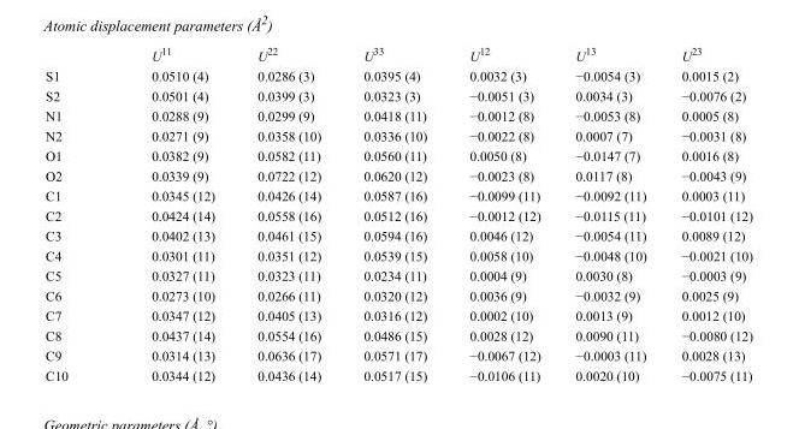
<table><thead><tr><td></td><td>U<sup>11</sup></td><td>U<sup>22</sup></td><td>U<sup>33</sup></td><td>U<sup>12</sup></td><td>U<sup>13</sup></td><td>U<sup>23</sup></td></tr></thead><tbody><tr><td>S1</td><td>0.0510 (4)</td><td>0.0286 (3)</td><td>0.0395 (4)</td><td>0.0032 (3)</td><td>−0.0054 (3)</td><td>0.0015 (2)</td></tr><tr><td>S2</td><td>0.0501 (4)</td><td>0.0399 (3)</td><td>0.0323 (3)</td><td>−0.0051 (3)</td><td>0.0034 (3)</td><td>−0.0076 (2)</td></tr><tr><td>N1</td><td>0.0288 (9)</td><td>0.0299 (9)</td><td>0.0418 (11)</td><td>−0.0012 (8)</td><td>−0.0053 (8)</td><td>0.0005 (8)</td></tr><tr><td>N2</td><td>0.0271 (9)</td><td>0.0358 (10)</td><td>0.0336 (10)</td><td>−0.0022 (8)</td><td>0.0007 (7)</td><td>−0.0031 (8)</td></tr><tr><td>O1</td><td>0.0382 (9)</td><td>0.0582 (11)</td><td>0.0560 (11)</td><td>0.0050 (8)</td><td>−0.0147 (7)</td><td>0.0016 (8)</td></tr><tr><td>O2</td><td>0.0339 (9)</td><td>0.0722 (12)</td><td>0.0620 (12)</td><td>−0.0023 (8)</td><td>0.0117 (8)</td><td>−0.0043 (9)</td></tr><tr><td>C1</td><td>0.0345 (12)</td><td>0.0426 (14)</td><td>0.0587 (16)</td><td>−0.0099 (11)</td><td>−0.0092 (11)</td><td>0.0003 (11)</td></tr><tr><td>C2</td><td>0.0424 (14)</td><td>0.0558 (16)</td><td>0.0512 (16)</td><td>−0.0012 (12)</td><td>−0.0115 (11)</td><td>−0.0101 (12)</td></tr><tr><td>C3</td><td>0.0402 (13)</td><td>0.0461 (15)</td><td>0.0594 (16)</td><td>0.0046 (12)</td><td>−0.0054 (11)</td><td>0.0089 (12)</td></tr><tr><td>C4</td><td>0.0301 (11)</td><td>0.0351 (12)</td><td>0.0539 (15)</td><td>0.0058 (10)</td><td>−0.0048 (10)</td><td>−0.0021 (10)</td></tr><tr><td>C5</td><td>0.0327 (11)</td><td>0.0323 (11)</td><td>0.0234 (11)</td><td>0.0004 (9)</td><td>0.0030 (8)</td><td>−0.0003 (9)</td></tr><tr><td>C6</td><td>0.0273 (10)</td><td>0.0266 (11)</td><td>0.0320 (12)</td><td>0.0036 (9)</td><td>−0.0032 (9)</td><td>0.0025 (9)</td></tr><tr><td>C7</td><td>0.0347 (12)</td><td>0.0405 (13)</td><td>0.0316 (12)</td><td>0.0002 (10)</td><td>0.0013 (9)</td><td>0.0012 (10)</td></tr><tr><td>C8</td><td>0.0437 (14)</td><td>0.0554 (16)</td><td>0.0486 (15)</td><td>0.0028 (12)</td><td>0.0090 (11)</td><td>−0.0080 (12)</td></tr><tr><td>C9</td><td>0.0314 (13)</td><td>0.0636 (17)</td><td>0.0571 (17)</td><td>−0.0067 (12)</td><td>−0.0003 (11)</td><td>0.0028 (13)</td></tr><tr><td>C10</td><td>0.0344 (12)</td><td>0.0436 (14)</td><td>0.0517 (15)</td><td>−0.0106 (11)</td><td>0.0020 (10)</td><td>−0.0075 (11)</td></tr></tbody></table>